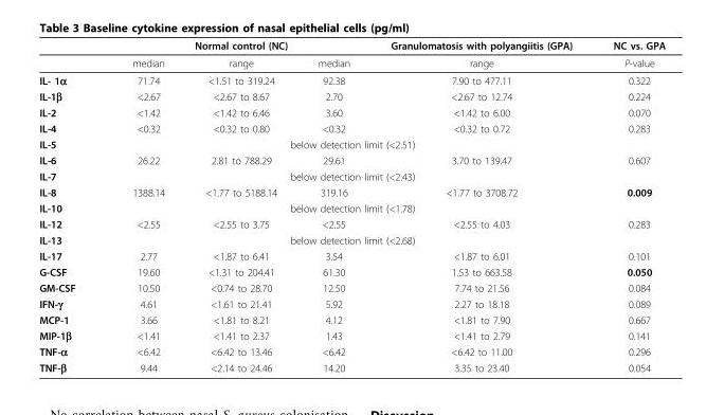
<table><thead><tr><td rowspan="2"></td><td colspan="3">Normal control (NC)</td><td rowspan="2">Granulomatosis with polyangiitis (GPA) range</td><td rowspan="2">NC vs. GPA P-value</td></tr><tr><td>median</td><td>range</td><td>median</td></tr></thead><tbody><tr><td>IL- 1α</td><td>71.74</td><td>&lt;1.51 to 319.24</td><td>92.38</td><td>7.90 to 477.11</td><td>0.322</td></tr><tr><td>IL-1β</td><td>&lt;2.67</td><td>&lt;2.67 to 8.67</td><td>2.70</td><td>&lt;2.67 to 12.74</td><td>0.224</td></tr><tr><td>IL-2</td><td>&lt;1.42</td><td>&lt;1.42 to 6.46</td><td>3.60</td><td>&lt;1.42 to 6.00</td><td>0.070</td></tr><tr><td>IL-4</td><td>&lt;0.32</td><td>&lt;0.32 to 0.80</td><td>&lt;0.32</td><td>&lt;0.32 to 0.72</td><td>0.283</td></tr><tr><td>IL-5</td><td colspan="4">below detection limit (&lt;2.51)</td><td></td></tr><tr><td>IL-6</td><td>26.22</td><td>2.81 to 788.29</td><td>29.61</td><td>3.70 to 139.47</td><td>0.607</td></tr><tr><td>IL-7</td><td colspan="4">below detection limit (&lt;2.43)</td><td></td></tr><tr><td>IL-8</td><td>1388.14</td><td>&lt;1.77 to 5188.14</td><td>319.16</td><td>&lt;1.77 to 3708.72</td><td>0.009</td></tr><tr><td>IL-10</td><td colspan="4">below detection limit (&lt;1.78)</td><td></td></tr><tr><td>IL-12</td><td>&lt;2.55</td><td>&lt;2.55 to 3.75</td><td>&lt;2.55</td><td>&lt;2.55 to 4.03</td><td>0.283</td></tr><tr><td>IL-13</td><td colspan="4">below detection limit (&lt;2.68)</td><td></td></tr><tr><td>IL-17</td><td>2.77</td><td>&lt;1.87 to 6.41</td><td>3.54</td><td>&lt;1.87 to 6.01</td><td>0.101</td></tr><tr><td>G-CSF</td><td>19.60</td><td>&lt;1.31 to 204.41</td><td>61.30</td><td>1.53 to 663.58</td><td>0.050</td></tr><tr><td>GM-CSF</td><td>10.50</td><td>&lt;0.74 to 28.70</td><td>12.50</td><td>7.74 to 21.56</td><td>0.084</td></tr><tr><td>IFN-γ</td><td>4.61</td><td>&lt;1.61 to 21.41</td><td>5.92</td><td>2.27 to 18.18</td><td>0.089</td></tr><tr><td>MCP-1</td><td>3.66</td><td>&lt;1.81 to 8.21</td><td>4.12</td><td>&lt;1.81 to 7.90</td><td>0.667</td></tr><tr><td>MIP-1β</td><td>&lt;1.41</td><td>&lt;1.41 to 2.37</td><td>1.43</td><td>&lt;1.41 to 2.79</td><td>0.141</td></tr><tr><td>TNF-α</td><td>&lt;6.42</td><td>&lt;6.42 to 13.46</td><td>&lt;6.42</td><td>&lt;6.42 to 11.00</td><td>0.296</td></tr><tr><td>TNF-β</td><td>9.44</td><td>&lt;2.14 to 24.46</td><td>14.20</td><td>3.35 to 23.40</td><td>0.054</td></tr></tbody></table>